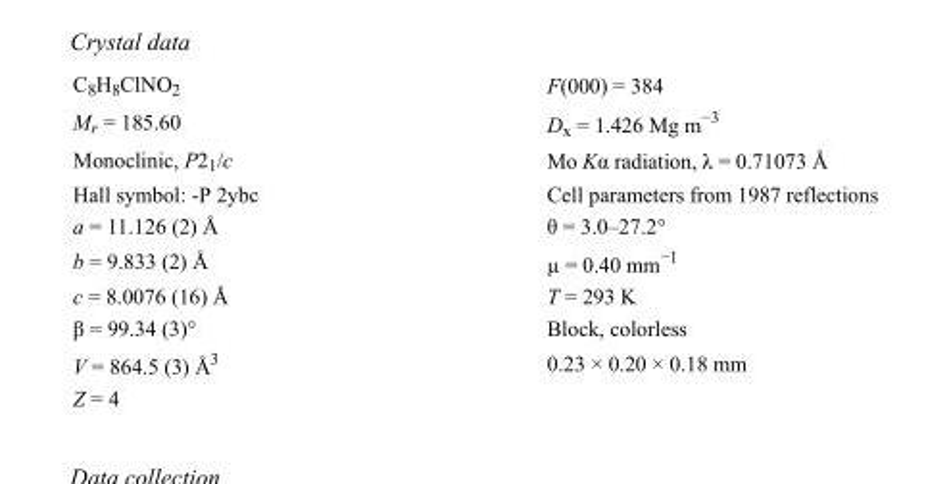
<table><tbody><tr><td>C<sub>8</sub>H<sub>8</sub>ClNO<sub>2</sub></td><td>F(000) = 384</td></tr><tr><td>M<sub>r</sub> = 185.60</td><td>D<sub>x</sub> = 1.426 Mg m<sup>−3</sup></td></tr><tr><td>Monoclinic, P2<sub>1</sub>/c</td><td>Mo Kα radiation, λ = 0.71073 Å</td></tr><tr><td>Hall symbol: -P 2ybc</td><td>Cell parameters from 1987 reflections</td></tr><tr><td>a = 11.126 (2) Å</td><td>θ = 3.0–27.2°</td></tr><tr><td>b = 9.833 (2) Å</td><td>µ = 0.40 mm<sup>−1</sup></td></tr><tr><td>c = 8.0076 (16) Å</td><td>T = 293 K</td></tr><tr><td>β = 99.34 (3)°</td><td>Block, colorless</td></tr><tr><td>V = 864.5 (3) Å<sup>3</sup></td><td>0.23 × 0.20 × 0.18 mm</td></tr><tr><td>Z = 4</td><td></td></tr></tbody></table>